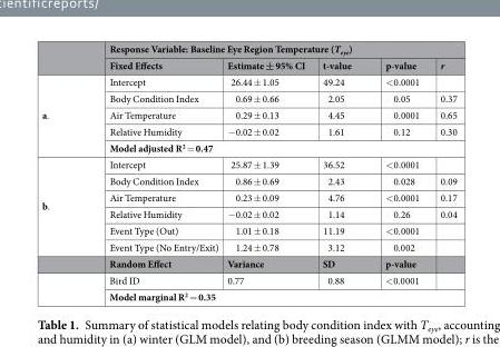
<table><thead><tr><td rowspan="2"></td><td colspan="5">Response Variable: Baseline Eye Region Temperature (T<sub>eye</sub>)</td></tr><tr><td>Fixed Effects</td><td>Estimate ± 95% CI</td><td>t-value</td><td>p-value</td><td>r</td></tr></thead><tbody><tr><td rowspan="5">a.</td><td>Intercept</td><td>26.44 ± 1.05</td><td>49.24</td><td>&lt;0.0001</td><td></td></tr><tr><td>Body Condition Index</td><td>0.69 ± 0.66</td><td>2.05</td><td>0.05</td><td>0.37</td></tr><tr><td>Air Temperature</td><td>0.29 ± 0.13</td><td>4.45</td><td>0.0001</td><td>0.65</td></tr><tr><td>Relative Humidity</td><td>−0.02 ± 0.02</td><td>1.61</td><td>0.12</td><td>0.30</td></tr><tr><td colspan="5">Model adjusted R<sup>2</sup> = 0.47</td></tr><tr><td rowspan="9">b.</td><td>Intercept</td><td>25.87 ± 1.39</td><td>36.52</td><td>&lt;0.0001</td><td></td></tr><tr><td>Body Condition Index</td><td>0.86 ± 0.69</td><td>2.43</td><td>0.028</td><td>0.09</td></tr><tr><td>Air Temperature</td><td>0.23 ± 0.09</td><td>4.76</td><td>&lt;0.0001</td><td>0.17</td></tr><tr><td>Relative Humidity</td><td>−0.02 ± 0.02</td><td>1.14</td><td>0.26</td><td>0.04</td></tr><tr><td>Event Type (Out)</td><td>1.01 ± 0.18</td><td>11.19</td><td>&lt;0.0001</td><td></td></tr><tr><td>Event Type (No Entry/Exit)</td><td>1.24 ± 0.78</td><td>3.12</td><td>0.002</td><td></td></tr><tr><td>Random Effect</td><td>Variance</td><td>SD</td><td>p-value</td><td></td></tr><tr><td>Bird ID</td><td>0.77</td><td>0.88</td><td>&lt;0.0001</td><td></td></tr><tr><td colspan="5">Model marginal R<sup>2</sup> = 0.35</td></tr></tbody></table>